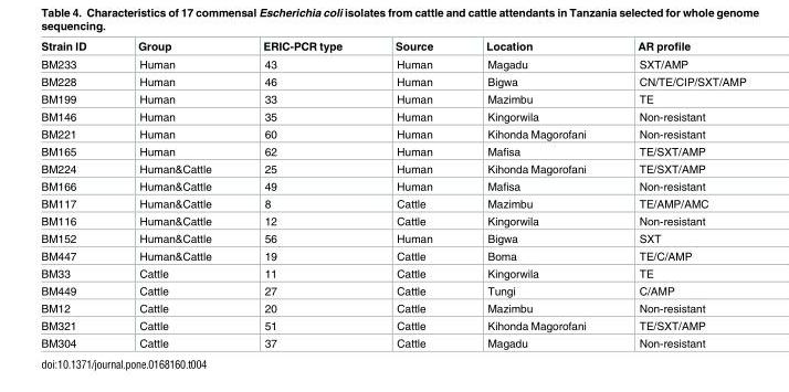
<table><thead><tr><td>Strain ID</td><td>Group</td><td>ERIC-PCR type</td><td>Source</td><td>Location</td><td>AR profile</td></tr></thead><tbody><tr><td>BM233</td><td>Human</td><td>43</td><td>Human</td><td>Magadu</td><td>SXT/AMP</td></tr><tr><td>BM228</td><td>Human</td><td>46</td><td>Human</td><td>Bigwa</td><td>CN/TE/CIP/SXT/AMP</td></tr><tr><td>BM199</td><td>Human</td><td>33</td><td>Human</td><td>Mazimbu</td><td>TE</td></tr><tr><td>BM146</td><td>Human</td><td>35</td><td>Human</td><td>Kingorwila</td><td>Non-resistant</td></tr><tr><td>BM221</td><td>Human</td><td>60</td><td>Human</td><td>Kihonda Magorofani</td><td>Non-resistant</td></tr><tr><td>BM165</td><td>Human</td><td>62</td><td>Human</td><td>Mafisa</td><td>TE/SXT/AMP</td></tr><tr><td>BM224</td><td>Human&amp;Cattle</td><td>25</td><td>Human</td><td>Kihonda Magorofani</td><td>TE/SXT/AMP</td></tr><tr><td>BM166</td><td>Human&amp;Cattle</td><td>49</td><td>Human</td><td>Mafisa</td><td>Non-resistant</td></tr><tr><td>BM117</td><td>Human&amp;Cattle</td><td>8</td><td>Cattle</td><td>Mazimbu</td><td>TE/AMP/AMC</td></tr><tr><td>BM116</td><td>Human&amp;Cattle</td><td>12</td><td>Cattle</td><td>Kingorwila</td><td>Non-resistant</td></tr><tr><td>BM152</td><td>Human&amp;Cattle</td><td>56</td><td>Human</td><td>Bigwa</td><td>SXT</td></tr><tr><td>BM447</td><td>Human&amp;Cattle</td><td>19</td><td>Cattle</td><td>Boma</td><td>TE/C/AMP</td></tr><tr><td>BM33</td><td>Cattle</td><td>11</td><td>Cattle</td><td>Kingorwila</td><td>TE</td></tr><tr><td>BM449</td><td>Cattle</td><td>27</td><td>Cattle</td><td>Tungi</td><td>C/AMP</td></tr><tr><td>BM12</td><td>Cattle</td><td>20</td><td>Cattle</td><td>Mazimbu</td><td>Non-resistant</td></tr><tr><td>BM321</td><td>Cattle</td><td>51</td><td>Cattle</td><td>Kihonda Magorofani</td><td>TE/SXT/AMP</td></tr><tr><td>BM304</td><td>Cattle</td><td>37</td><td>Cattle</td><td>Magadu</td><td>Non-resistant</td></tr></tbody></table>